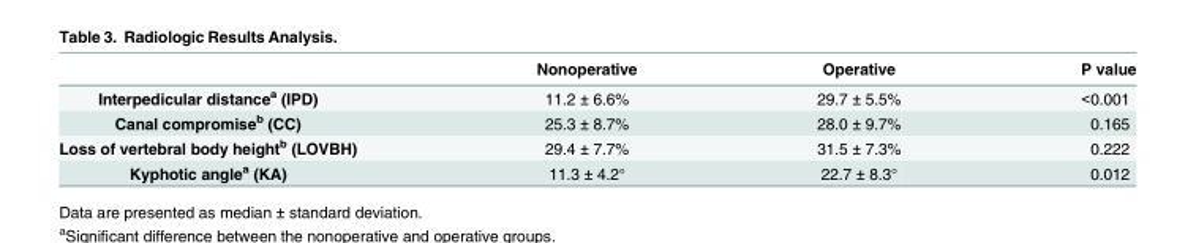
<table><thead><tr><td></td><td>Nonoperative</td><td>Operative</td><td>P value</td></tr></thead><tbody><tr><td>Interpedicular distance<sup>a</sup> (IPD)</td><td>11.2 ± 6.6%</td><td>29.7 ± 5.5%</td><td>&lt;0.001</td></tr><tr><td>Canal compromise<sup>b</sup> (CC)</td><td>25.3 ± 8.7%</td><td>28.0 ± 9.7%</td><td>0.165</td></tr><tr><td>Loss of vertebral body height<sup>b</sup> (LOVBH)</td><td>29.4 ± 7.7%</td><td>31.5 ± 7.3%</td><td>0.222</td></tr><tr><td>Kyphotic angle<sup>a</sup> (KA)</td><td>11.3 ± 4.2°</td><td>22.7 ± 8.3°</td><td>0.012</td></tr></tbody></table>